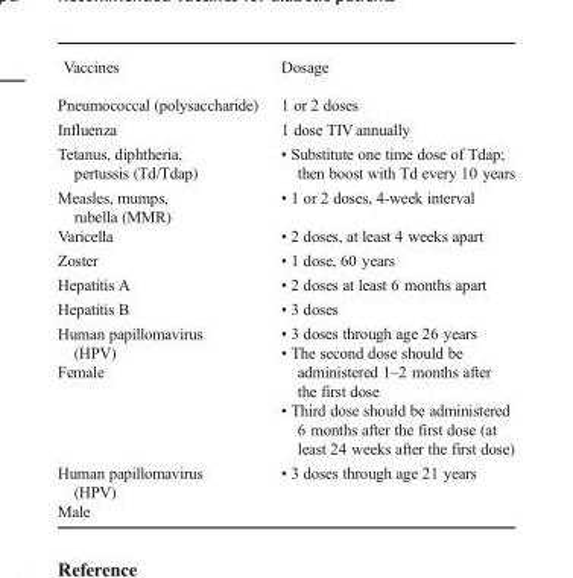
<table><thead><tr><td>Vaccines</td><td>Dosage</td></tr></thead><tbody><tr><td>Pneumococcal (polysaccharide)</td><td>1 or 2 doses</td></tr><tr><td>Influenza</td><td>1 dose TIVannually</td></tr><tr><td>Tetanus, diphtheria, pertussis (Td/Tdap)</td><td>• Substitute one time dose of Tdap; then boost with Td every 10 years</td></tr><tr><td>Measles, mumps, rubella (MMR)</td><td>• 1 or 2 doses, 4-week interval</td></tr><tr><td>Varicella</td><td>• 2 doses, at least 4 weeks apart</td></tr><tr><td>Zoster</td><td>• 1 dose, 60 years</td></tr><tr><td>Hepatitis A</td><td>• 2 doses at least 6 months apart</td></tr><tr><td>Hepatitis B</td><td>• 3 doses</td></tr><tr><td>Human papillomavirus (HPV) Female</td><td>• 3 doses through age 26 years • The second dose should be administered 1–2 months after the first dose • Third dose should be administered 6 months after the first dose (at least 24 weeks after the first dose)</td></tr><tr><td>Human papillomavirus (HPV) Male</td><td>• 3 doses through age 21 years</td></tr></tbody></table>